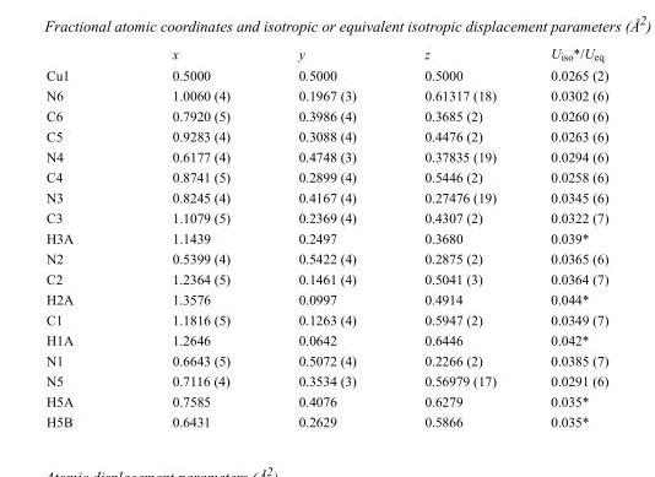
<table><thead><tr><td></td><td>x</td><td>y</td><td>z</td><td>U<sub>iso</sub>*/U<sub>eq</sub></td></tr></thead><tbody><tr><td>Cu1</td><td>0.5000</td><td>0.5000</td><td>0.5000</td><td>0.0265 (2)</td></tr><tr><td>N6</td><td>1.0060 (4)</td><td>0.1967 (3)</td><td>0.61317 (18)</td><td>0.0302 (6)</td></tr><tr><td>C6</td><td>0.7920 (5)</td><td>0.3986 (4)</td><td>0.3685 (2)</td><td>0.0260 (6)</td></tr><tr><td>C5</td><td>0.9283 (4)</td><td>0.3088 (4)</td><td>0.4476 (2)</td><td>0.0263 (6)</td></tr><tr><td>N4</td><td>0.6177 (4)</td><td>0.4748 (3)</td><td>0.37835 (19)</td><td>0.0294 (6)</td></tr><tr><td>C4</td><td>0.8741 (5)</td><td>0.2899 (4)</td><td>0.5446 (2)</td><td>0.0258 (6)</td></tr><tr><td>N3</td><td>0.8245 (4)</td><td>0.4167 (4)</td><td>0.27476 (19)</td><td>0.0345 (6)</td></tr><tr><td>C3</td><td>1.1079 (5)</td><td>0.2369 (4)</td><td>0.4307 (2)</td><td>0.0322 (7)</td></tr><tr><td>H3A</td><td>1.1439</td><td>0.2497</td><td>0.3680</td><td>0.039*</td></tr><tr><td>N2</td><td>0.5399 (4)</td><td>0.5422 (4)</td><td>0.2875 (2)</td><td>0.0365 (6)</td></tr><tr><td>C2</td><td>1.2364 (5)</td><td>0.1461 (4)</td><td>0.5041 (3)</td><td>0.0364 (7)</td></tr><tr><td>H2A</td><td>1.3576</td><td>0.0997</td><td>0.4914</td><td>0.044*</td></tr><tr><td>C1</td><td>1.1816 (5)</td><td>0.1263 (4)</td><td>0.5947 (2)</td><td>0.0349 (7)</td></tr><tr><td>H1A</td><td>1.2646</td><td>0.0642</td><td>0.6446</td><td>0.042*</td></tr><tr><td>N1</td><td>0.6643 (5)</td><td>0.5072 (4)</td><td>0.2266 (2)</td><td>0.0385 (7)</td></tr><tr><td>N5</td><td>0.7116 (4)</td><td>0.3534 (3)</td><td>0.56979 (17)</td><td>0.0291 (6)</td></tr><tr><td>H5A</td><td>0.7585</td><td>0.4076</td><td>0.6279</td><td>0.035*</td></tr><tr><td>H5B</td><td>0.6431</td><td>0.2629</td><td>0.5866</td><td>0.035*</td></tr></tbody></table>